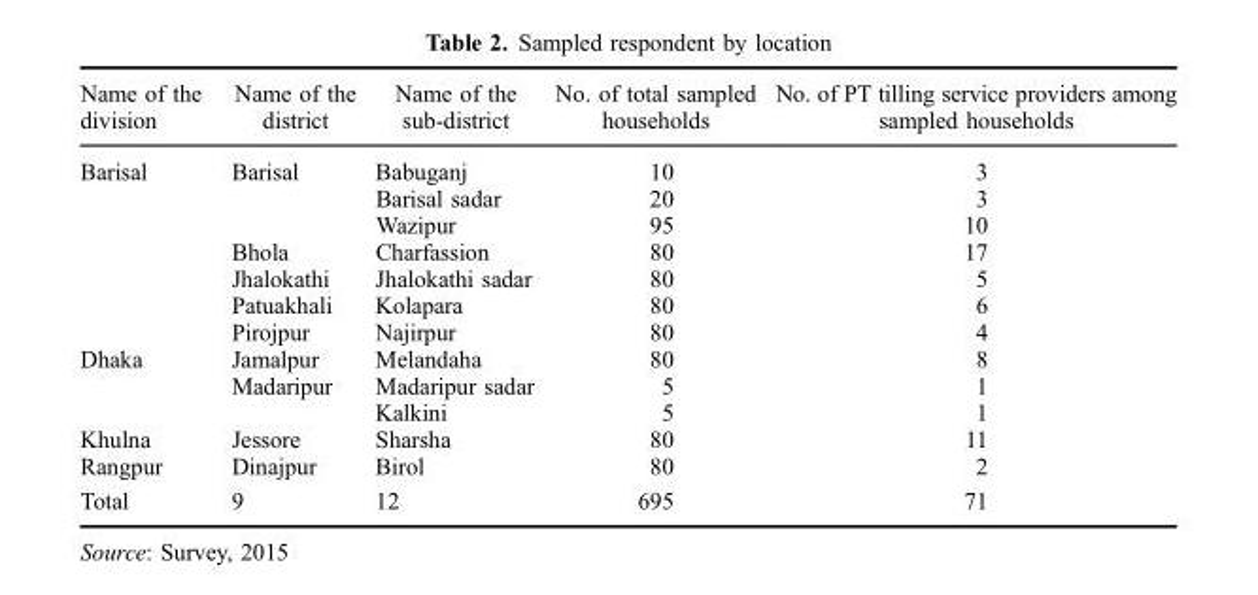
<table><thead><tr><td>Name of the division</td><td>Name of the district</td><td>Name of the sub-district</td><td>No. of total sampled households</td><td>No. of PT tilling service providers among sampled households</td></tr></thead><tbody><tr><td rowspan="7">Barisal</td><td>Barisal</td><td>Babuganj</td><td>10</td><td>3</td></tr><tr><td></td><td>Barisal sadar</td><td>20</td><td>3</td></tr><tr><td></td><td>Wazipur</td><td>95</td><td>10</td></tr><tr><td>Bhola</td><td>Charfassion</td><td>80</td><td>17</td></tr><tr><td>Jhalokathi</td><td>Jhalokathi sadar</td><td>80</td><td>5</td></tr><tr><td>Patuakhali</td><td>Kolapara</td><td>80</td><td>6</td></tr><tr><td>Pirojpur</td><td>Najirpur</td><td>80</td><td>4</td></tr><tr><td rowspan="3">Dhaka</td><td>Jamalpur</td><td>Melandaha</td><td>80</td><td>8</td></tr><tr><td>Madaripur</td><td>Madaripur sadar</td><td>5</td><td>1</td></tr><tr><td></td><td>Kalkini</td><td>5</td><td>1</td></tr><tr><td>Khulna</td><td>Jessore</td><td>Sharsha</td><td>80</td><td>11</td></tr><tr><td>Rangpur</td><td>Dinajpur</td><td>Birol</td><td>80</td><td>2</td></tr><tr><td>Total</td><td>9</td><td>12</td><td>695</td><td>71</td></tr></tbody></table>